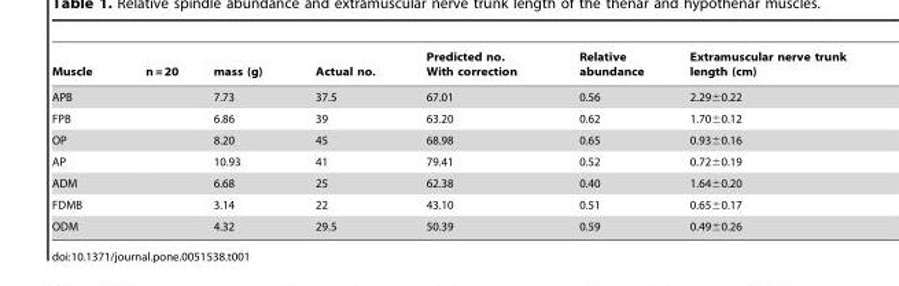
<table><thead><tr><td>Muscle</td><td>n = 20</td><td>mass (g)</td><td>Actual no.</td><td>Predicted no. With correction</td><td>Relative abundance</td><td>Extramuscular nerve trunk length (cm)</td></tr></thead><tbody><tr><td>APB</td><td></td><td>7.73</td><td>37.5</td><td>67.01</td><td>0.56</td><td>2.29±0.22</td></tr><tr><td>FPB</td><td></td><td>6.86</td><td>39</td><td>63.20</td><td>0.62</td><td>1.70±0.12</td></tr><tr><td>OP</td><td></td><td>8.20</td><td>45</td><td>68.98</td><td>0.65</td><td>0.93±0.16</td></tr><tr><td>AP</td><td></td><td>10.93</td><td>41</td><td>79.41</td><td>0.52</td><td>0.72±0.19</td></tr><tr><td>ADM</td><td></td><td>6.68</td><td>25</td><td>62.38</td><td>0.40</td><td>1.64±0.20</td></tr><tr><td>FDMB</td><td></td><td>3.14</td><td>22</td><td>43.10</td><td>0.51</td><td>0.65±0.17</td></tr><tr><td>ODM</td><td></td><td>4.32</td><td>29.5</td><td>50.39</td><td>0.59</td><td>0.49±0.26</td></tr></tbody></table>